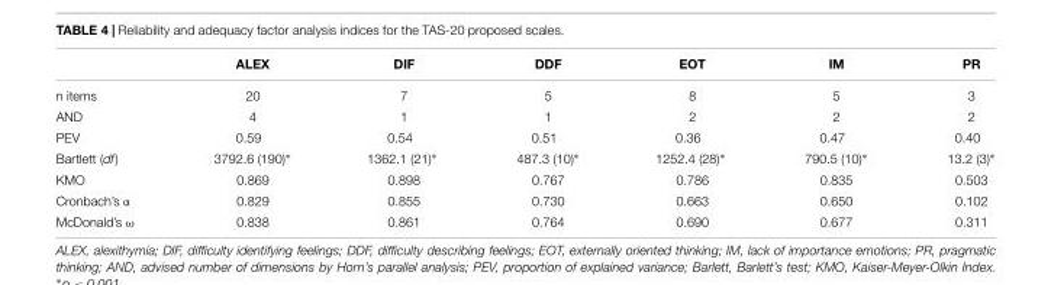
<table><thead><tr><td></td><td>ALEX</td><td>DIF</td><td>DDF</td><td>EOT</td><td>IM</td><td>PR</td></tr></thead><tbody><tr><td>n items</td><td>20</td><td>7</td><td>5</td><td>8</td><td>5</td><td>3</td></tr><tr><td>AND</td><td>4</td><td>1</td><td>1</td><td>2</td><td>2</td><td>2</td></tr><tr><td>PEV</td><td>0.59</td><td>0.54</td><td>0.51</td><td>0.36</td><td>0.47</td><td>0.40</td></tr><tr><td>Bartlett (df)</td><td>3792.6 (190)∗</td><td>1362.1 (21)∗</td><td>487.3 (10)∗</td><td>1252.4 (28)∗</td><td>790.5 (10)∗</td><td>13.2 (3)∗</td></tr><tr><td>KMO</td><td>0.869</td><td>0.898</td><td>0.767</td><td>0.786</td><td>0.835</td><td>0.503</td></tr><tr><td>Cronbach’s α</td><td>0.829</td><td>0.855</td><td>0.730</td><td>0.663</td><td>0.650</td><td>0.102</td></tr><tr><td>McDonald’s ω</td><td>0.838</td><td>0.861</td><td>0.764</td><td>0.690</td><td>0.677</td><td>0.311</td></tr></tbody></table>